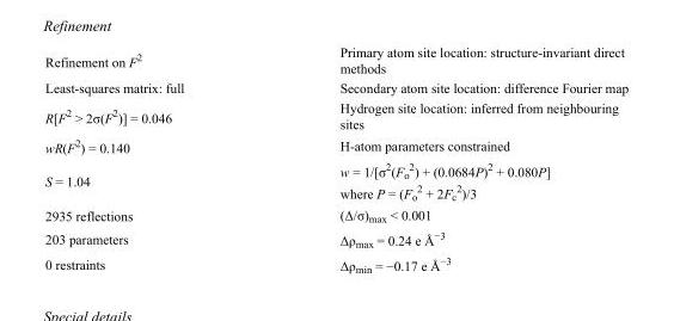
<table><tbody><tr><td>Refinement on F<sup>2</sup></td><td>Primary atom site location: structure-invariant direct methods</td></tr><tr><td>Least-squares matrix: full</td><td>Secondary atom site location: difference Fourier map</td></tr><tr><td>R[F<sup>2</sup> &gt; 2σ(F<sup>2</sup>)] = 0.046</td><td>Hydrogen site location: inferred from neighbouring sites</td></tr><tr><td>wR(F<sup>2</sup>) = 0.140</td><td>H-atom parameters constrained</td></tr><tr><td>S = 1.04</td><td>w = 1/[σ<sup>2</sup>(F<sub>o</sub> <sup>2</sup>) + (0.0684P)<sup>2</sup> + 0.080P] where P = (F<sub>o</sub> <sup>2</sup> + 2F<sub>c</sub> <sup>2</sup>)/3</td></tr><tr><td>2935 reflections</td><td>(Δ/σ)<sub>max</sub> &lt; 0.001</td></tr><tr><td>203 parameters</td><td>Δρ<sub>max</sub> = 0.24 e Å<sup>−3</sup></td></tr><tr><td>0 restraints</td><td>Δρ<sub>min</sub> = −0.17 e Å<sup>−3</sup></td></tr></tbody></table>